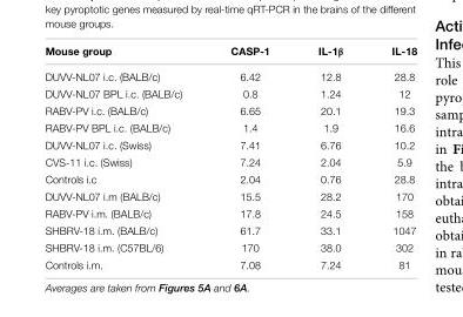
<table><thead><tr><td>Mouse group</td><td>CASP-1</td><td>IL-1β</td><td>IL-18</td></tr></thead><tbody><tr><td>DUVV-NL07 i.c. (BALB/c)</td><td>6.42</td><td>12.8</td><td>28.8</td></tr><tr><td>DUVV-NL07 BPL i.c. (BALB/c)</td><td>0.8</td><td>1.24</td><td>12</td></tr><tr><td>RABV-PV i.c. (BALB/c)</td><td>6.65</td><td>20.1</td><td>19.3</td></tr><tr><td>RABV-PV BPL i.c. (BALB/c)</td><td>1.4</td><td>1.9</td><td>16.6</td></tr><tr><td>DUVV-NL07 i.c. (Swiss)</td><td>7.41</td><td>6.76</td><td>10.2</td></tr><tr><td>CVS-11 i.c. (Swiss)</td><td>7.24</td><td>2.04</td><td>5.9</td></tr><tr><td>Controls i.c</td><td>2.04</td><td>0.76</td><td>28.8</td></tr><tr><td>DUVV-NL07 i.m (BALB/c)</td><td>15.5</td><td>28.2</td><td>170</td></tr><tr><td>RABV-PV i.m. (BALB/c)</td><td>17.8</td><td>24.5</td><td>158</td></tr><tr><td>SHBRV-18 i.m. (BALB/c)</td><td>61.7</td><td>33.1</td><td>1047</td></tr><tr><td>SHBRV-18 i.m. (C57BL/6)</td><td>170</td><td>38.0</td><td>302</td></tr><tr><td>Controls i.m.</td><td>7.08</td><td>7.24</td><td>81</td></tr></tbody></table>